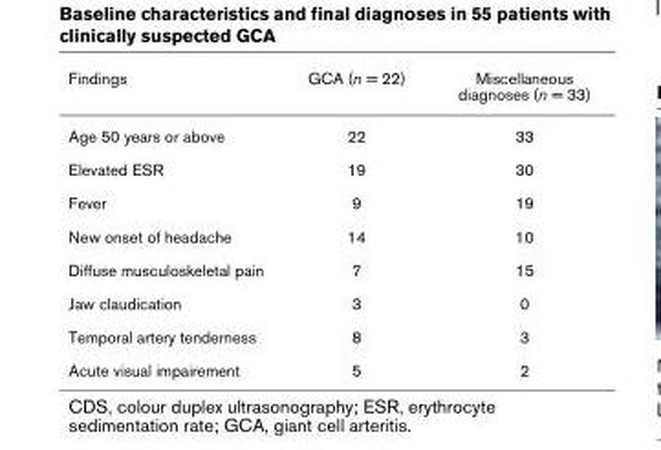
<table><thead><tr><td>Findings</td><td>GCA (n = 22)</td><td>Miscellaneous diagnoses (n = 33)</td></tr></thead><tbody><tr><td>Age 50 years or above</td><td>22</td><td>33</td></tr><tr><td>Elevated ESR</td><td>19</td><td>30</td></tr><tr><td>Fever</td><td>9</td><td>19</td></tr><tr><td>New onset of headache</td><td>14</td><td>10</td></tr><tr><td>Diffuse musculoskeletal pain</td><td>7</td><td>15</td></tr><tr><td>Jaw claudication</td><td>3</td><td>0</td></tr><tr><td>Temporal artery tenderness</td><td>8</td><td>3</td></tr><tr><td>Acute visual impairement</td><td>5</td><td>2</td></tr></tbody></table>